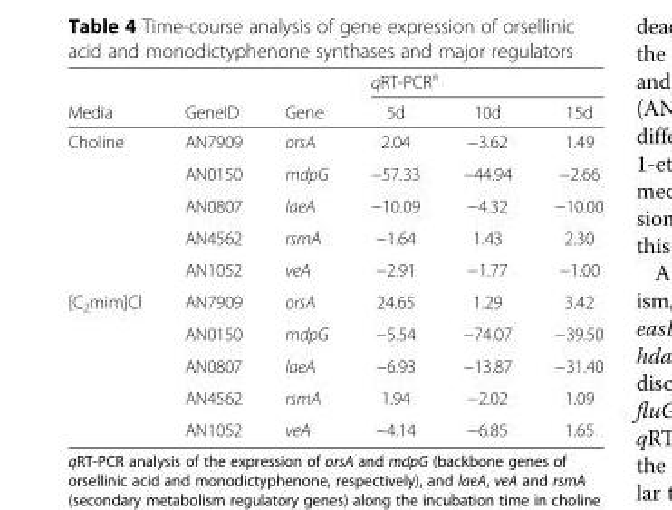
<table><thead><tr><td rowspan="2">Media</td><td rowspan="2">GeneID</td><td rowspan="2">Gene</td><td colspan="3">qRT-PCR<sup>a</sup></td></tr><tr><td>5d</td><td>10d</td><td>15d</td></tr></thead><tbody><tr><td rowspan="5">Choline</td><td>AN7909</td><td>orsA</td><td>2.04</td><td>−3.62</td><td>1.49</td></tr><tr><td>AN0150</td><td>mdpG</td><td>−57.33</td><td>−44.94</td><td>−2.66</td></tr><tr><td>AN0807</td><td>laeA</td><td>−10.09</td><td>−4.32</td><td>−10.00</td></tr><tr><td>AN4562</td><td>rsmA</td><td>−1.64</td><td>1.43</td><td>2.30</td></tr><tr><td>AN1052</td><td>veA</td><td>−2.91</td><td>−1.77</td><td>−1.00</td></tr><tr><td rowspan="5">[C<sub>2</sub>mim]Cl</td><td>AN7909</td><td>orsA</td><td>24.65</td><td>1.29</td><td>3.42</td></tr><tr><td>AN0150</td><td>mdpG</td><td>−5.54</td><td>−74.07</td><td>−39.50</td></tr><tr><td>AN0807</td><td>laeA</td><td>−6.93</td><td>−13.87</td><td>−31.40</td></tr><tr><td>AN4562</td><td>rsmA</td><td>1.94</td><td>−2.02</td><td>1.09</td></tr><tr><td>AN1052</td><td>veA</td><td>−4.14</td><td>−6.85</td><td>1.65</td></tr></tbody></table>